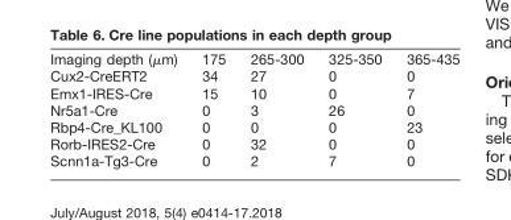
<table><thead><tr><td>Imaging depth (µm)</td><td>175</td><td>265-300</td><td>325-350</td><td>365-435</td></tr></thead><tbody><tr><td>Cux2-CreERT2</td><td>34</td><td>27</td><td>0</td><td>0</td></tr><tr><td>Emx1-IRES-Cre</td><td>15</td><td>10</td><td>0</td><td>7</td></tr><tr><td>Nr5a1-Cre</td><td>0</td><td>3</td><td>26</td><td>0</td></tr><tr><td>Rbp4-Cre_KL100</td><td>0</td><td>0</td><td>0</td><td>23</td></tr><tr><td>Rorb-IRES2-Cre</td><td>0</td><td>32</td><td>0</td><td>0</td></tr><tr><td>Scnn1a-Tg3-Cre</td><td>0</td><td>2</td><td>7</td><td>0</td></tr></tbody></table>